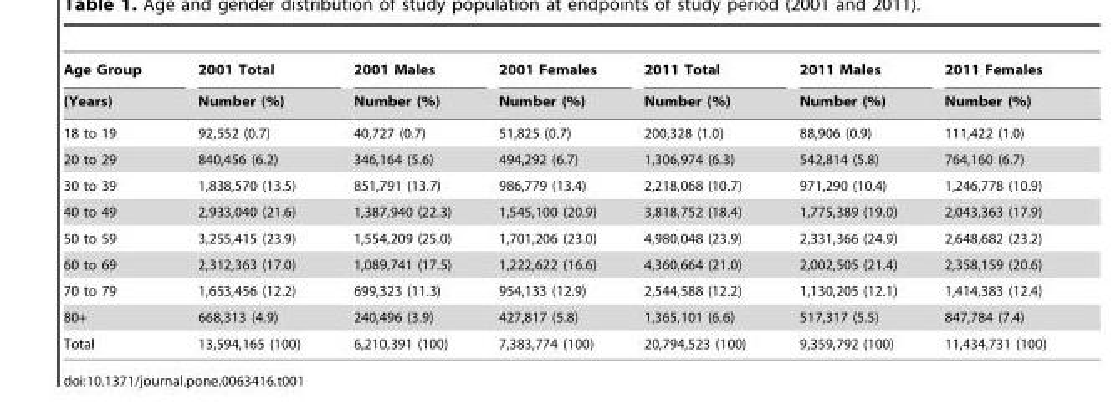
<table><thead><tr><td rowspan="2">Age Group (Years)</td><td rowspan="2">2001 Total Number (%)</td><td rowspan="2">2001 Males Number (%)</td><td rowspan="2">2001 Females Number (%)</td><td rowspan="2">2011 Total Number (%)</td><td rowspan="2">2011 Males Number (%)</td><td rowspan="2">2011 Females Number (%)</td></tr><tr></tr></thead><tbody><tr><td>18 to 19</td><td>92,552 (0.7)</td><td>40,727 (0.7)</td><td>51,825 (0.7)</td><td>200,328 (1.0)</td><td>88,906 (0.9)</td><td>111,422 (1.0)</td></tr><tr><td>20 to 29</td><td>840,456 (6.2)</td><td>346,164 (5.6)</td><td>494,292 (6.7)</td><td>1,306,974 (6.3)</td><td>542,814 (5.8)</td><td>764,160 (6.7)</td></tr><tr><td>30 to 39</td><td>1,838,570 (13.5)</td><td>851,791 (13.7)</td><td>986,779 (13.4)</td><td>2,218,068 (10.7)</td><td>971,290 (10.4)</td><td>1,246,778 (10.9)</td></tr><tr><td>40 to 49</td><td>2,933,040 (21.6)</td><td>1,387,940 (22.3)</td><td>1,545,100 (20.9)</td><td>3,818,752 (18.4)</td><td>1,775,389 (19.0)</td><td>2,043,363 (17.9)</td></tr><tr><td>50 to 59</td><td>3,255,415 (23.9)</td><td>1,554,209 (25.0)</td><td>1,701,206 (23.0)</td><td>4,980,048 (23.9)</td><td>2,331,366 (24.9)</td><td>2,648,682 (23.2)</td></tr><tr><td>60 to 69</td><td>2,312,363 (17.0)</td><td>1,089,741 (17.5)</td><td>1,222,622 (16.6)</td><td>4,360,664 (21.0)</td><td>2,002,505 (21.4)</td><td>2,358,159 (20.6)</td></tr><tr><td>70 to 79</td><td>1,653,456 (12.2)</td><td>699,323 (11.3)</td><td>954,133 (12.9)</td><td>2,544,588 (12.2)</td><td>1,130,205 (12.1)</td><td>1,414,383 (12.4)</td></tr><tr><td>80+</td><td>668,313 (4.9)</td><td>240,496 (3.9)</td><td>427,817 (5.8)</td><td>1,365,101 (6.6)</td><td>517,317 (5.5)</td><td>847,784 (7.4)</td></tr><tr><td>Total</td><td>13,594,165 (100)</td><td>6,210,391 (100)</td><td>7,383,774 (100)</td><td>20,794,523 (100)</td><td>9,359,792 (100)</td><td>11,434,731 (100)</td></tr></tbody></table>